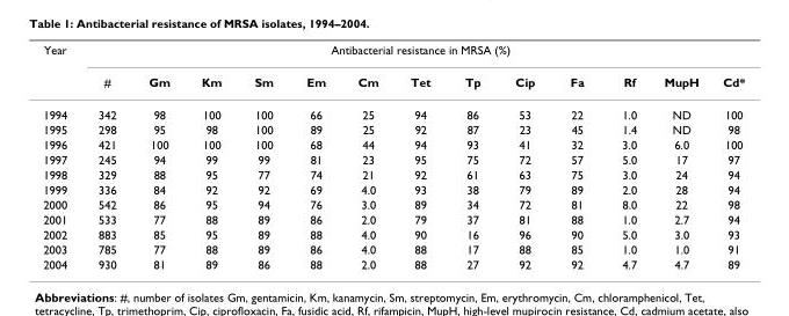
<table><thead><tr><td rowspan="2">Year</td><td colspan="13">Antibacterial resistance in MRSA (%)</td></tr><tr><td>#</td><td>Gm</td><td>Km</td><td>Sm</td><td>Em</td><td>Cm</td><td>Tet</td><td>Tp</td><td>Cip</td><td>Fa</td><td>Rf</td><td>MupH</td><td>Cd*</td></tr></thead><tbody><tr><td>1994</td><td>342</td><td>98</td><td>100</td><td>100</td><td>66</td><td>25</td><td>94</td><td>86</td><td>53</td><td>22</td><td>1.0</td><td>ND</td><td>100</td></tr><tr><td>1995</td><td>298</td><td>95</td><td>98</td><td>100</td><td>89</td><td>25</td><td>92</td><td>87</td><td>23</td><td>45</td><td>1.4</td><td>ND</td><td>98</td></tr><tr><td>1996</td><td>421</td><td>100</td><td>100</td><td>100</td><td>68</td><td>44</td><td>94</td><td>93</td><td>41</td><td>32</td><td>3.0</td><td>6.0</td><td>100</td></tr><tr><td>1997</td><td>245</td><td>94</td><td>99</td><td>99</td><td>81</td><td>23</td><td>95</td><td>75</td><td>72</td><td>57</td><td>5.0</td><td>17</td><td>97</td></tr><tr><td>1998</td><td>329</td><td>88</td><td>95</td><td>77</td><td>74</td><td>21</td><td>92</td><td>61</td><td>63</td><td>75</td><td>3.0</td><td>24</td><td>94</td></tr><tr><td>1999</td><td>336</td><td>84</td><td>92</td><td>92</td><td>69</td><td>4.0</td><td>93</td><td>38</td><td>79</td><td>89</td><td>2.0</td><td>28</td><td>94</td></tr><tr><td>2000</td><td>542</td><td>86</td><td>95</td><td>94</td><td>76</td><td>3.0</td><td>89</td><td>34</td><td>72</td><td>81</td><td>8.0</td><td>22</td><td>98</td></tr><tr><td>2001</td><td>533</td><td>77</td><td>88</td><td>89</td><td>86</td><td>2.0</td><td>79</td><td>37</td><td>81</td><td>88</td><td>1.0</td><td>2.7</td><td>94</td></tr><tr><td>2002</td><td>883</td><td>85</td><td>95</td><td>89</td><td>88</td><td>4.0</td><td>90</td><td>16</td><td>96</td><td>90</td><td>5.0</td><td>3.0</td><td>93</td></tr><tr><td>2003</td><td>785</td><td>77</td><td>88</td><td>89</td><td>86</td><td>4.0</td><td>88</td><td>17</td><td>88</td><td>85</td><td>1.0</td><td>1.0</td><td>91</td></tr><tr><td>2004</td><td>930</td><td>81</td><td>89</td><td>86</td><td>88</td><td>2.0</td><td>88</td><td>27</td><td>92</td><td>92</td><td>4.7</td><td>4.7</td><td>89</td></tr></tbody></table>